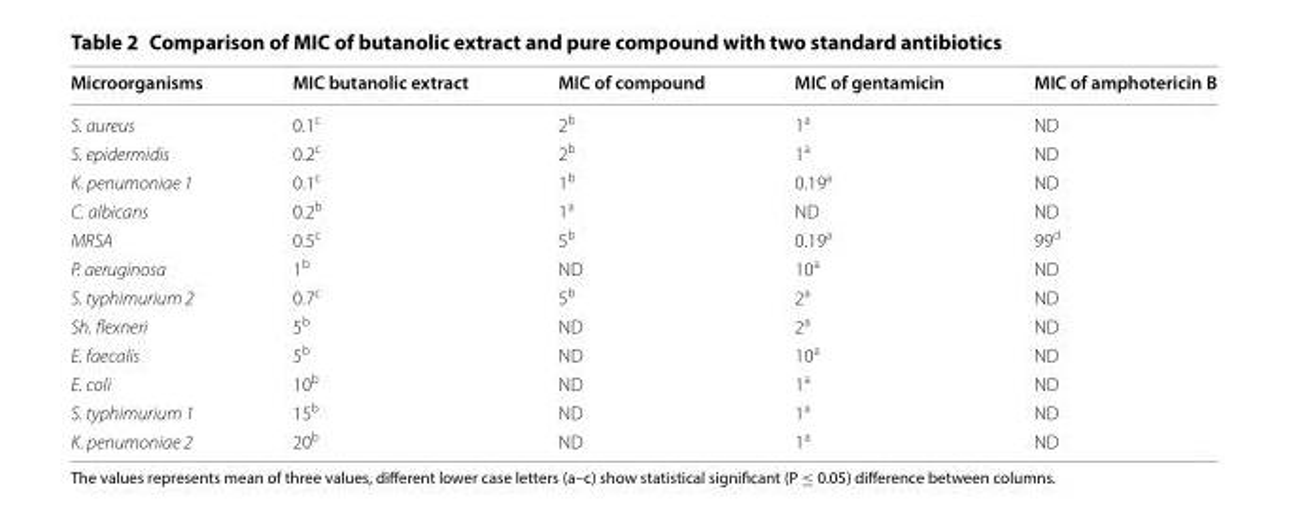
<table><thead><tr><td>Microorganisms</td><td>MIC butanolic extract</td><td>MIC of compound</td><td>MIC of gentamicin</td><td>MIC of amphotericin B</td></tr></thead><tbody><tr><td>S. aureus</td><td>0.1<sup>c</sup></td><td>2<sup>b</sup></td><td>1<sup>a</sup></td><td>ND</td></tr><tr><td>S. epidermidis</td><td>0.2<sup>c</sup></td><td>2<sup>b</sup></td><td>1<sup>a</sup></td><td>ND</td></tr><tr><td>K. penumoniae 1</td><td>0.1<sup>c</sup></td><td>1<sup>b</sup></td><td>0.19<sup>a</sup></td><td>ND</td></tr><tr><td>C. albicans</td><td>0.2<sup>b</sup></td><td>1<sup>a</sup></td><td>ND</td><td>ND</td></tr><tr><td>MRSA</td><td>0.5<sup>c</sup></td><td>5<sup>b</sup></td><td>0.19<sup>a</sup></td><td>99<sup>d</sup></td></tr><tr><td>P. aeruginosa</td><td>1<sup>b</sup></td><td>ND</td><td>10<sup>a</sup></td><td>ND</td></tr><tr><td>S. typhimurium 2</td><td>0.7<sup>c</sup></td><td>5<sup>b</sup></td><td>2<sup>a</sup></td><td>ND</td></tr><tr><td>Sh. flexneri</td><td>5<sup>b</sup></td><td>ND</td><td>2<sup>a</sup></td><td>ND</td></tr><tr><td>E. faecalis</td><td>5<sup>b</sup></td><td>ND</td><td>10<sup>a</sup></td><td>ND</td></tr><tr><td>E. coli</td><td>10<sup>b</sup></td><td>ND</td><td>1<sup>a</sup></td><td>ND</td></tr><tr><td>S. typhimurium 1</td><td>15<sup>b</sup></td><td>ND</td><td>1<sup>a</sup></td><td>ND</td></tr><tr><td>K. penumoniae 2</td><td>20<sup>b</sup></td><td>ND</td><td>1<sup>a</sup></td><td>ND</td></tr></tbody></table>